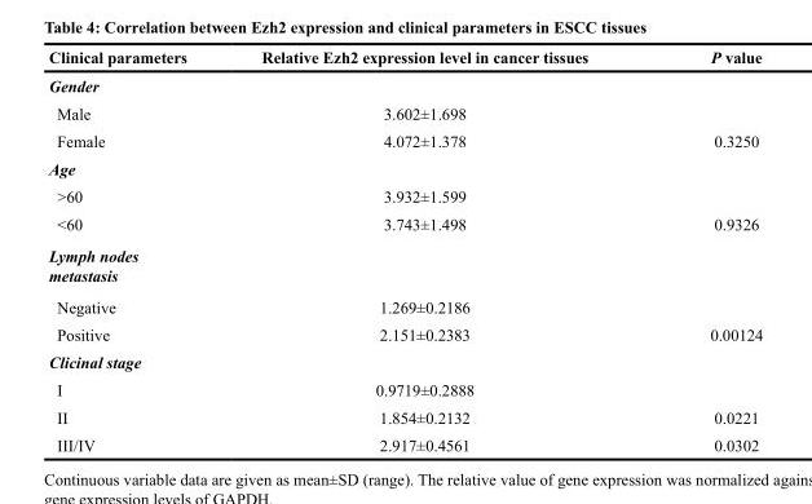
<table><thead><tr><td>Clinical parameters</td><td>Relative Ezh2 expression level in cancer tissues</td><td>P value</td></tr></thead><tbody><tr><td colspan="3">Gender</td></tr><tr><td>Male</td><td>3.602±1.698</td><td></td></tr><tr><td>Female</td><td>4.072±1.378</td><td>0.3250</td></tr><tr><td colspan="3">Age</td></tr><tr><td>&gt;60</td><td>3.932±1.599</td><td></td></tr><tr><td>&lt;60</td><td>3.743±1.498</td><td>0.9326</td></tr><tr><td colspan="3">Lymph nodes metastasis</td></tr><tr><td>Negative</td><td>1.269±0.2186</td><td></td></tr><tr><td>Positive</td><td>2.151±0.2383</td><td>0.00124</td></tr><tr><td colspan="3">Clicinal stage</td></tr><tr><td>I</td><td>0.9719±0.2888</td><td></td></tr><tr><td>II</td><td>1.854±0.2132</td><td>0.0221</td></tr><tr><td>III/IV</td><td>2.917±0.4561</td><td>0.0302</td></tr></tbody></table>